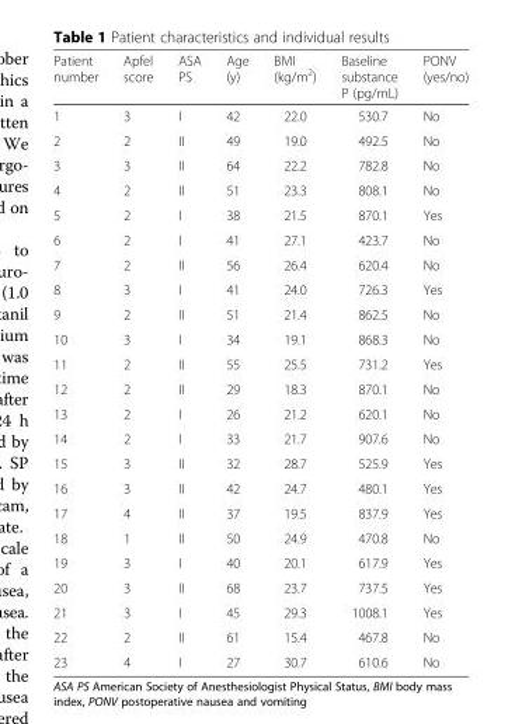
<table><thead><tr><td>Patient number</td><td>Apfel score</td><td>ASA PS</td><td>Age (y)</td><td>BMI (kg/m<sup>2</sup>)</td><td>Baseline substance P (pg/mL)</td><td>PONV (yes/no)</td></tr></thead><tbody><tr><td>1</td><td>3</td><td>I</td><td>42</td><td>22.0</td><td>530.7</td><td>No</td></tr><tr><td>2</td><td>2</td><td>II</td><td>49</td><td>19.0</td><td>492.5</td><td>No</td></tr><tr><td>3</td><td>3</td><td>II</td><td>64</td><td>22.2</td><td>782.8</td><td>No</td></tr><tr><td>4</td><td>2</td><td>II</td><td>51</td><td>23.3</td><td>808.1</td><td>No</td></tr><tr><td>5</td><td>2</td><td>I</td><td>38</td><td>21.5</td><td>870.1</td><td>Yes</td></tr><tr><td>6</td><td>2</td><td>I</td><td>41</td><td>27.1</td><td>423.7</td><td>No</td></tr><tr><td>7</td><td>2</td><td>II</td><td>56</td><td>26.4</td><td>620.4</td><td>No</td></tr><tr><td>8</td><td>3</td><td>I</td><td>41</td><td>24.0</td><td>726.3</td><td>Yes</td></tr><tr><td>9</td><td>2</td><td>II</td><td>51</td><td>21.4</td><td>862.5</td><td>No</td></tr><tr><td>10</td><td>3</td><td>I</td><td>34</td><td>19.1</td><td>868.3</td><td>No</td></tr><tr><td>11</td><td>2</td><td>II</td><td>55</td><td>25.5</td><td>731.2</td><td>Yes</td></tr><tr><td>12</td><td>2</td><td>II</td><td>29</td><td>18.3</td><td>870.1</td><td>No</td></tr><tr><td>13</td><td>2</td><td>I</td><td>26</td><td>21.2</td><td>620.1</td><td>No</td></tr><tr><td>14</td><td>2</td><td>I</td><td>33</td><td>21.7</td><td>907.6</td><td>No</td></tr><tr><td>15</td><td>3</td><td>II</td><td>32</td><td>28.7</td><td>525.9</td><td>Yes</td></tr><tr><td>16</td><td>3</td><td>II</td><td>42</td><td>24.7</td><td>480.1</td><td>Yes</td></tr><tr><td>17</td><td>4</td><td>II</td><td>37</td><td>19.5</td><td>837.9</td><td>Yes</td></tr><tr><td>18</td><td>1</td><td>II</td><td>50</td><td>24.9</td><td>470.8</td><td>No</td></tr><tr><td>19</td><td>3</td><td>I</td><td>40</td><td>20.1</td><td>617.9</td><td>Yes</td></tr><tr><td>20</td><td>3</td><td>II</td><td>68</td><td>23.7</td><td>737.5</td><td>Yes</td></tr><tr><td>21</td><td>3</td><td>I</td><td>45</td><td>29.3</td><td>1008.1</td><td>Yes</td></tr><tr><td>22</td><td>2</td><td>II</td><td>61</td><td>15.4</td><td>467.8</td><td>No</td></tr><tr><td>23</td><td>4</td><td>I</td><td>27</td><td>30.7</td><td>610.6</td><td>No</td></tr></tbody></table>